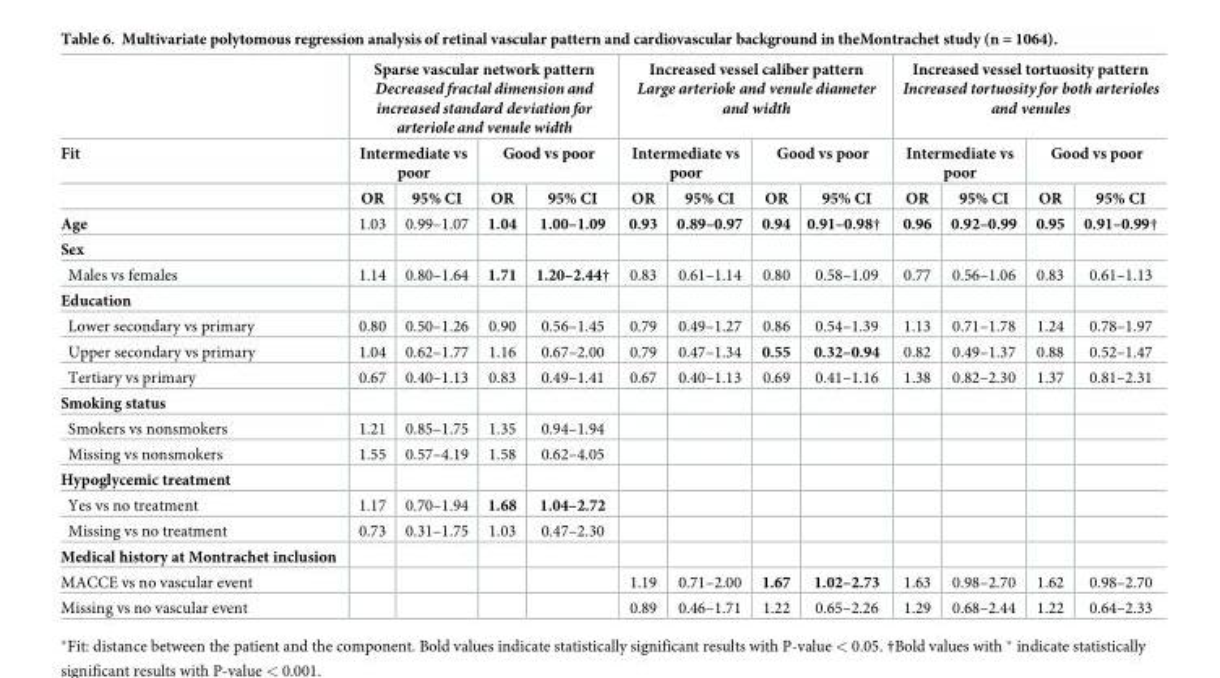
<table><thead><tr><td rowspan="3">Fit</td><td colspan="4">Sparse vascular network pattern Decreased fractal dimension and increased standard deviation for arteriole and venule width</td><td colspan="4">Increased vessel caliber pattern Large arteriole and venule diameter and width</td><td colspan="4">Increased vessel tortuosity pattern Increased tortuosity for both arterioles and venules</td></tr><tr><td colspan="2">Intermediate vs poor</td><td colspan="2">Good vs poor</td><td colspan="2">Intermediate vs poor</td><td colspan="2">Good vs poor</td><td colspan="2">Intermediate vs poor</td><td colspan="2">Good vs poor</td></tr><tr><td>OR</td><td>95% CI</td><td>OR</td><td>95% CI</td><td>OR</td><td>95% CI</td><td>OR</td><td>95% CI</td><td>OR</td><td>95% CI</td><td>OR</td><td>95% CI</td></tr></thead><tbody><tr><td>Age</td><td>1.03</td><td>0.99–1.07</td><td>1.04</td><td>1.00–1.09</td><td>0.93</td><td>0.89–0.97</td><td>0.94</td><td>0.91–0.98†</td><td>0.96</td><td>0.92–0.99</td><td>0.95</td><td>0.91–0.99†</td></tr><tr><td colspan="13">Sex</td></tr><tr><td>Males vs females</td><td>1.14</td><td>0.80–1.64</td><td>1.71</td><td>1.20–2.44†</td><td>0.83</td><td>0.61–1.14</td><td>0.80</td><td>0.58–1.09</td><td>0.77</td><td>0.56–1.06</td><td>0.83</td><td>0.61–1.13</td></tr><tr><td colspan="13">Education</td></tr><tr><td>Lower secondary vs primary</td><td>0.80</td><td>0.50–1.26</td><td>0.90</td><td>0.56–1.45</td><td>0.79</td><td>0.49–1.27</td><td>0.86</td><td>0.54–1.39</td><td>1.13</td><td>0.71–1.78</td><td>1.24</td><td>0.78–1.97</td></tr><tr><td>Upper secondary vs primary</td><td>1.04</td><td>0.62–1.77</td><td>1.16</td><td>0.67–2.00</td><td>0.79</td><td>0.47–1.34</td><td>0.55</td><td>0.32–0.94</td><td>0.82</td><td>0.49–1.37</td><td>0.88</td><td>0.52–1.47</td></tr><tr><td>Tertiary vs primary</td><td>0.67</td><td>0.40–1.13</td><td>0.83</td><td>0.49–1.41</td><td>0.67</td><td>0.40–1.13</td><td>0.69</td><td>0.41–1.16</td><td>1.38</td><td>0.82–2.30</td><td>1.37</td><td>0.81–2.31</td></tr><tr><td colspan="13">Smoking status</td></tr><tr><td>Smokers vs nonsmokers</td><td>1.21</td><td>0.85–1.75</td><td>1.35</td><td>0.94–1.94</td><td></td><td></td><td></td><td></td><td></td><td></td><td></td><td></td></tr><tr><td>Missing vs nonsmokers</td><td>1.55</td><td>0.57–4.19</td><td>1.58</td><td>0.62–4.05</td><td></td><td></td><td></td><td></td><td></td><td></td><td></td><td></td></tr><tr><td colspan="13">Hypoglycemic treatment</td></tr><tr><td>Yes vs no treatment</td><td>1.17</td><td>0.70–1.94</td><td>1.68</td><td>1.04–2.72</td><td></td><td></td><td></td><td></td><td></td><td></td><td></td><td></td></tr><tr><td>Missing vs no treatment</td><td>0.73</td><td>0.31–1.75</td><td>1.03</td><td>0.47–2.30</td><td></td><td></td><td></td><td></td><td></td><td></td><td></td><td></td></tr><tr><td colspan="13">Medical history at Montrachet inclusion</td></tr><tr><td>MACCE vs no vascular event</td><td></td><td></td><td></td><td></td><td>1.19</td><td>0.71–2.00</td><td>1.67</td><td>1.02–2.73</td><td>1.63</td><td>0.98–2.70</td><td>1.62</td><td>0.98–2.70</td></tr><tr><td>Missing vs no vascular event</td><td></td><td></td><td></td><td></td><td>0.89</td><td>0.46–1.71</td><td>1.22</td><td>0.65–2.26</td><td>1.29</td><td>0.68–2.44</td><td>1.22</td><td>0.64–2.33</td></tr></tbody></table>